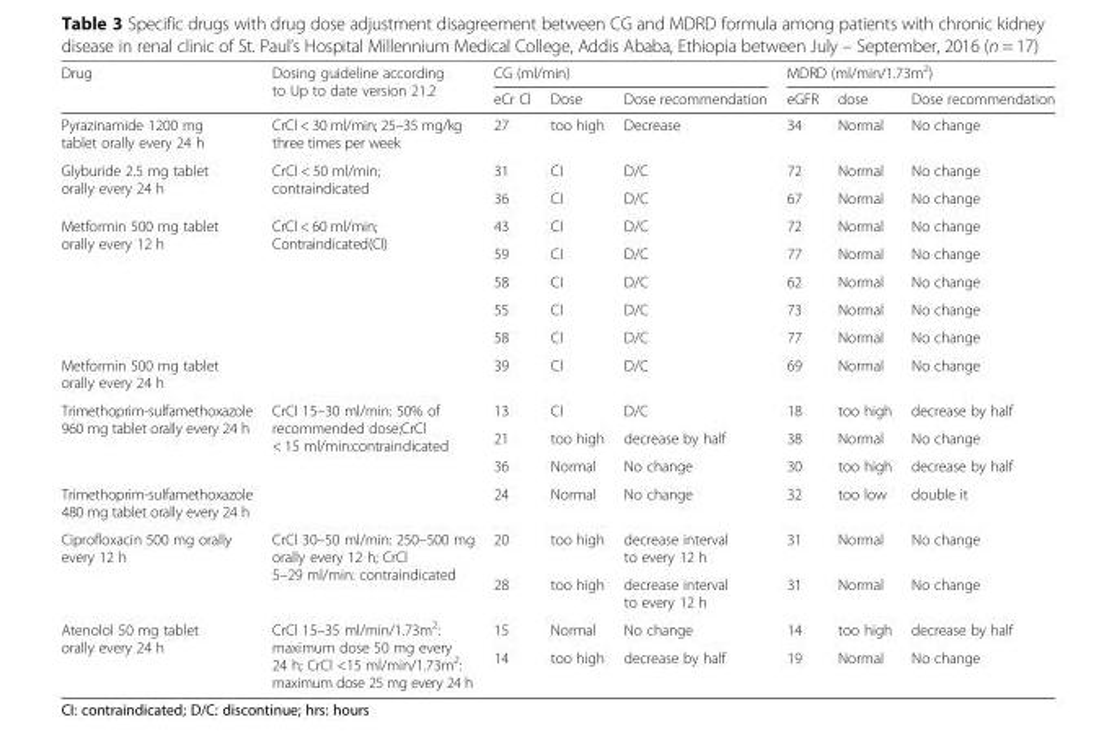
<table><thead><tr><td rowspan="2">Drug</td><td rowspan="2">Dosing guideline according to Up to date version 21.2</td><td colspan="3">CG (ml/min)</td><td colspan="3">MDRD (ml/min/1.73m<sup>2</sup>)</td></tr><tr><td>eCr Cl</td><td>Dose</td><td>Dose recommendation</td><td>eGFR</td><td>dose</td><td>Dose recommendation</td></tr></thead><tbody><tr><td>Pyrazinamide 1200 mg tablet orally every 24 h</td><td>CrCl &lt; 30 ml/min; 25–35 mg/kg three times per week</td><td>27</td><td>too high</td><td>Decrease</td><td>34</td><td>Normal</td><td>No change</td></tr><tr><td rowspan="2">Glyburide 2.5 mg tablet orally every 24 h</td><td rowspan="2">CrCl &lt; 50 ml/min; contraindicated</td><td>31</td><td>CI</td><td>D/C</td><td>72</td><td>Normal</td><td>No change</td></tr><tr><td>36</td><td>CI</td><td>D/C</td><td>67</td><td>Normal</td><td>No change</td></tr><tr><td rowspan="5">Metformin 500 mg tablet orally every 12 h</td><td rowspan="6">CrCl &lt; 60 ml/min; Contraindicated(CI)</td><td>43</td><td>CI</td><td>D/C</td><td>72</td><td>Normal</td><td>No change</td></tr><tr><td>59</td><td>CI</td><td>D/C</td><td>77</td><td>Normal</td><td>No change</td></tr><tr><td>58</td><td>CI</td><td>D/C</td><td>62</td><td>Normal</td><td>No change</td></tr><tr><td>55</td><td>CI</td><td>D/C</td><td>73</td><td>Normal</td><td>No change</td></tr><tr><td>58</td><td>CI</td><td>D/C</td><td>77</td><td>Normal</td><td>No change</td></tr><tr><td>Metformin 500 mg tablet orally every 24 h</td><td>39</td><td>CI</td><td>D/C</td><td>69</td><td>Normal</td><td>No change</td></tr><tr><td rowspan="3">Trimethoprim-sulfamethoxazole 960 mg tablet orally every 24 h</td><td rowspan="4">CrCl 15–30 ml/min: 50% of recommended dose;CrCl &lt; 15 ml/min:contraindicated</td><td>13</td><td>CI</td><td>D/C</td><td>18</td><td>too high</td><td>decrease by half</td></tr><tr><td>21</td><td>too high</td><td>decrease by half</td><td>38</td><td>Normal</td><td>No change</td></tr><tr><td>36</td><td>Normal</td><td>No change</td><td>30</td><td>too high</td><td>decrease by half</td></tr><tr><td>Trimethoprim-sulfamethoxazole 480 mg tablet orally every 24 h</td><td>24</td><td>Normal</td><td>No change</td><td>32</td><td>too low</td><td>double it</td></tr><tr><td rowspan="2">Ciprofloxacin 500 mg orally every 12 h</td><td rowspan="2">CrCl 30–50 ml/min: 250–500 mg orally every 12 h; CrCl 5–29 ml/min: contraindicated</td><td>20</td><td>too high</td><td>decrease interval to every 12 h</td><td>31</td><td>Normal</td><td>No change</td></tr><tr><td>28</td><td>too high</td><td>decrease interval to every 12 h</td><td>31</td><td>Normal</td><td>No change</td></tr><tr><td rowspan="2">Atenolol 50 mg tablet orally every 24 h</td><td rowspan="2">CrCl 15–35 ml/min/1.73m<sup>2</sup>: maximum dose 50 mg every 24 h; CrCl &lt;15 ml/min/1.73m<sup>2</sup>: maximum dose 25 mg every 24 h</td><td>15</td><td>Normal</td><td>No change</td><td>14</td><td>too high</td><td>decrease by half</td></tr><tr><td>14</td><td>too high</td><td>decrease by half</td><td>19</td><td>Normal</td><td>No change</td></tr></tbody></table>